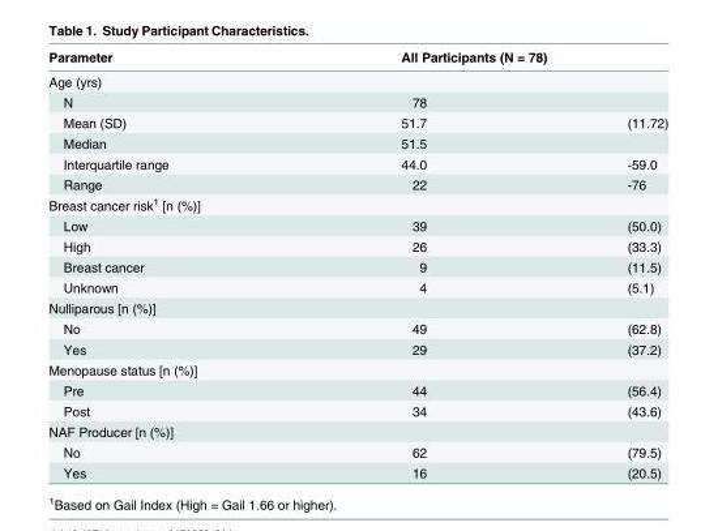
<table><thead><tr><td rowspan="2">Parameter Age (yrs)</td><td colspan="2">All Participants (N = 78)</td></tr><tr><td></td><td></td></tr></thead><tbody><tr><td>N</td><td>78</td><td></td></tr><tr><td>Mean (SD)</td><td>51.7</td><td>(11.72)</td></tr><tr><td>Median</td><td>51.5</td><td></td></tr><tr><td>Interquartile range</td><td>44.0</td><td>-59.0</td></tr><tr><td>Range</td><td>22</td><td>-76</td></tr><tr><td colspan="3">Breast cancer risk<sup>1</sup> [n (%)]</td></tr><tr><td>Low</td><td>39</td><td>(50.0)</td></tr><tr><td>High</td><td>26</td><td>(33.3)</td></tr><tr><td>Breast cancer</td><td>9</td><td>(11.5)</td></tr><tr><td>Unknown</td><td>4</td><td>(5.1)</td></tr><tr><td colspan="3">Nulliparous [n (%)]</td></tr><tr><td>No</td><td>49</td><td>(62.8)</td></tr><tr><td>Yes</td><td>29</td><td>(37.2)</td></tr><tr><td colspan="3">Menopause status [n (%)]</td></tr><tr><td>Pre</td><td>44</td><td>(56.4)</td></tr><tr><td>Post</td><td>34</td><td>(43.6)</td></tr><tr><td colspan="3">NAF Producer [n (%)]</td></tr><tr><td>No</td><td>62</td><td>(79.5)</td></tr><tr><td>Yes</td><td>16</td><td>(20.5)</td></tr></tbody></table>